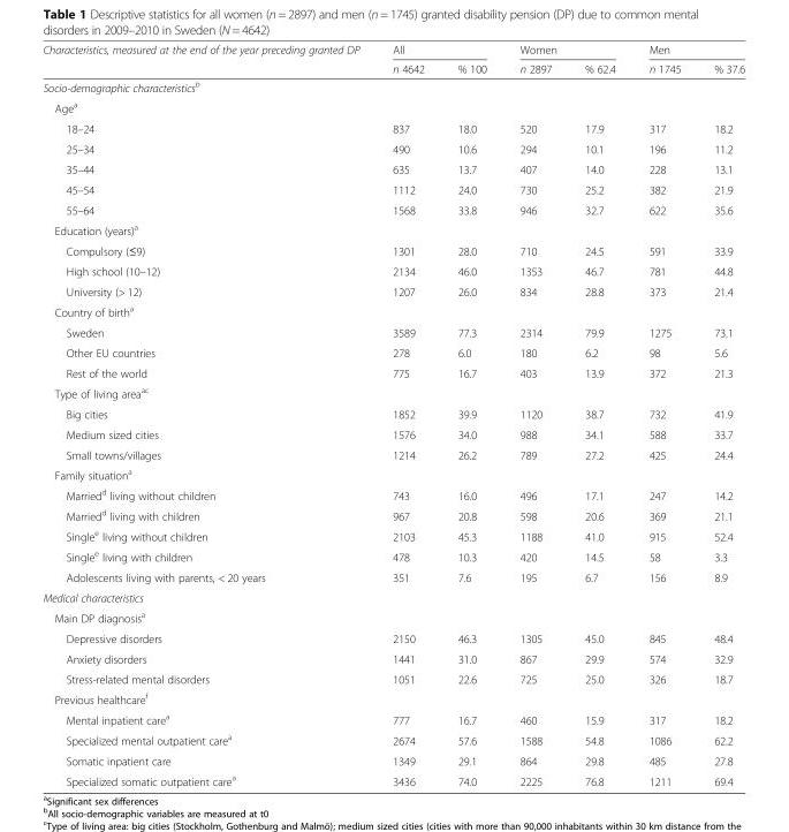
<table><thead><tr><td rowspan="2">Characteristics, measured at the end of the year preceding granted DP</td><td colspan="2">All</td><td colspan="2">Women</td><td colspan="2">Men</td></tr><tr><td>n 4642</td><td>% 100</td><td>n 2897</td><td>% 62.4</td><td>n 1745</td><td>% 37.6</td></tr></thead><tbody><tr><td colspan="7">Socio-demographic characteristics<sup>b</sup></td></tr><tr><td colspan="7">Age<sup>a</sup></td></tr><tr><td>18–24</td><td>837</td><td>18.0</td><td>520</td><td>17.9</td><td>317</td><td>18.2</td></tr><tr><td>25–34</td><td>490</td><td>10.6</td><td>294</td><td>10.1</td><td>196</td><td>11.2</td></tr><tr><td>35–44</td><td>635</td><td>13.7</td><td>407</td><td>14.0</td><td>228</td><td>13.1</td></tr><tr><td>45–54</td><td>1112</td><td>24.0</td><td>730</td><td>25.2</td><td>382</td><td>21.9</td></tr><tr><td>55–64</td><td>1568</td><td>33.8</td><td>946</td><td>32.7</td><td>622</td><td>35.6</td></tr><tr><td colspan="7">Education (years)<sup>a</sup></td></tr><tr><td>Compulsory (≤9)</td><td>1301</td><td>28.0</td><td>710</td><td>24.5</td><td>591</td><td>33.9</td></tr><tr><td>High school (10–12)</td><td>2134</td><td>46.0</td><td>1353</td><td>46.7</td><td>781</td><td>44.8</td></tr><tr><td>University (&gt; 12)</td><td>1207</td><td>26.0</td><td>834</td><td>28.8</td><td>373</td><td>21.4</td></tr><tr><td colspan="7">Country of birth<sup>a</sup></td></tr><tr><td>Sweden</td><td>3589</td><td>77.3</td><td>2314</td><td>79.9</td><td>1275</td><td>73.1</td></tr><tr><td>Other EU countries</td><td>278</td><td>6.0</td><td>180</td><td>6.2</td><td>98</td><td>5.6</td></tr><tr><td>Rest of the world</td><td>775</td><td>16.7</td><td>403</td><td>13.9</td><td>372</td><td>21.3</td></tr><tr><td colspan="7">Type of living area<sup>ac</sup></td></tr><tr><td>Big cities</td><td>1852</td><td>39.9</td><td>1120</td><td>38.7</td><td>732</td><td>41.9</td></tr><tr><td>Medium sized cities</td><td>1576</td><td>34.0</td><td>988</td><td>34.1</td><td>588</td><td>33.7</td></tr><tr><td>Small towns/villages</td><td>1214</td><td>26.2</td><td>789</td><td>27.2</td><td>425</td><td>24.4</td></tr><tr><td colspan="7">Family situation<sup>a</sup></td></tr><tr><td>Married<sup>d</sup> living without children</td><td>743</td><td>16.0</td><td>496</td><td>17.1</td><td>247</td><td>14.2</td></tr><tr><td>Married<sup>d</sup> living with children</td><td>967</td><td>20.8</td><td>598</td><td>20.6</td><td>369</td><td>21.1</td></tr><tr><td>Single<sup>e</sup> living without children</td><td>2103</td><td>45.3</td><td>1188</td><td>41.0</td><td>915</td><td>52.4</td></tr><tr><td>Single<sup>e</sup> living with children</td><td>478</td><td>10.3</td><td>420</td><td>14.5</td><td>58</td><td>3.3</td></tr><tr><td>Adolescents living with parents, &lt; 20 years</td><td>351</td><td>7.6</td><td>195</td><td>6.7</td><td>156</td><td>8.9</td></tr><tr><td colspan="7">Medical characteristics</td></tr><tr><td colspan="7">Main DP diagnosis<sup>a</sup></td></tr><tr><td>Depressive disorders</td><td>2150</td><td>46.3</td><td>1305</td><td>45.0</td><td>845</td><td>48.4</td></tr><tr><td>Anxiety disorders</td><td>1441</td><td>31.0</td><td>867</td><td>29.9</td><td>574</td><td>32.9</td></tr><tr><td>Stress-related mental disorders</td><td>1051</td><td>22.6</td><td>725</td><td>25.0</td><td>326</td><td>18.7</td></tr><tr><td colspan="7">Previous healthcare<sup>f</sup></td></tr><tr><td>Mental inpatient care<sup>a</sup></td><td>777</td><td>16.7</td><td>460</td><td>15.9</td><td>317</td><td>18.2</td></tr><tr><td>Specialized mental outpatient care<sup>a</sup></td><td>2674</td><td>57.6</td><td>1588</td><td>54.8</td><td>1086</td><td>62.2</td></tr><tr><td>Somatic inpatient care</td><td>1349</td><td>29.1</td><td>864</td><td>29.8</td><td>485</td><td>27.8</td></tr><tr><td>Specialized somatic outpatient care<sup>a</sup></td><td>3436</td><td>74.0</td><td>2225</td><td>76.8</td><td>1211</td><td>69.4</td></tr></tbody></table>